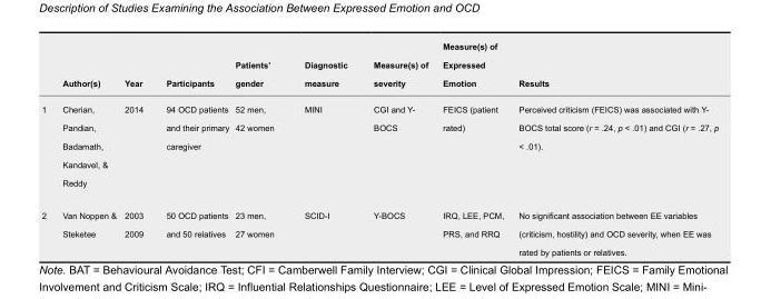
<table><thead><tr><td></td><td>Author(s)</td><td>Year</td><td>Participants</td><td>Patients’ gender</td><td>Diagnostic measure</td><td>Measure(s) of severity</td><td>Measure(s) of Expressed Emotion</td><td>Results</td></tr></thead><tbody><tr><td>1</td><td>Cherian, Pandian, Badamath, Kandavel, &amp; Reddy</td><td>2014</td><td>94 OCD patients and their primary caregiver</td><td>52 men, 42 women</td><td>MINI</td><td>CGI and Y- BOCS</td><td>FEICS (patient rated)</td><td>Perceived criticism (FEICS) was associated with Y- BOCS total score (r = .24, p &lt; .01) and CGI (r = .27, p &lt; .01).</td></tr><tr><td>2</td><td>Van Noppen &amp; Steketee</td><td>2003 2009</td><td>50 OCD patients and 50 relatives</td><td>23 men, 27 women</td><td>SCID-I</td><td>Y-BOCS</td><td>IRQ, LEE, PCM, PRS, and RRQ</td><td>No significant association between EE variables (criticism, hostility) and OCD severity, when EE was rated by patients or relatives.</td></tr></tbody></table>